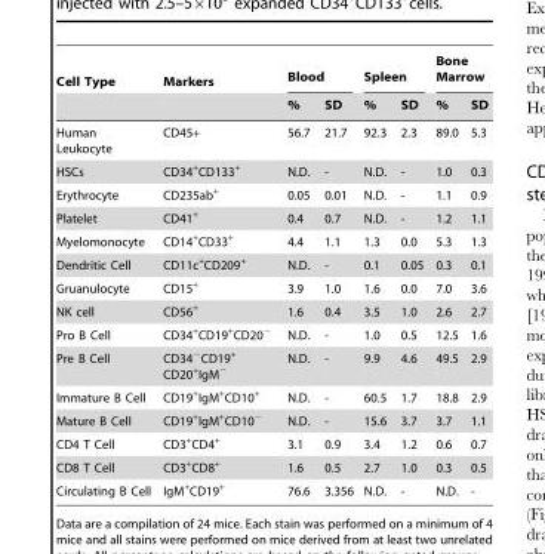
<table><thead><tr><td rowspan="2">Cell Type</td><td rowspan="2">Markers</td><td colspan="2">Blood</td><td colspan="2">Spleen</td><td colspan="2">Bone Marrow</td></tr><tr><td>%</td><td>SD</td><td>%</td><td>SD</td><td>%</td><td>SD</td></tr></thead><tbody><tr><td>Human Leukocyte</td><td>CD45+</td><td>56.7</td><td>21.7</td><td>92.3</td><td>2.3</td><td>89.0</td><td>5.3</td></tr><tr><td>HSCs</td><td>CD34<sup>+</sup>CD133<sup>+</sup></td><td>N.D.</td><td>-</td><td>N.D.</td><td>-</td><td>1.0</td><td>0.3</td></tr><tr><td>Erythrocyte</td><td>CD235ab<sup>+</sup></td><td>0.05</td><td>0.01</td><td>N.D.</td><td>-</td><td>1.1</td><td>0.9</td></tr><tr><td>Platelet</td><td>CD41<sup>+</sup></td><td>0.4</td><td>0.7</td><td>N.D.</td><td>-</td><td>1.2</td><td>1.1</td></tr><tr><td>Myelomonocyte</td><td>CD14<sup>+</sup>CD33<sup>+</sup></td><td>4.4</td><td>1.1</td><td>1.3</td><td>0.0</td><td>5.3</td><td>1.3</td></tr><tr><td>Dendritic Cell</td><td>CD11c<sup>+</sup>CD209<sup>+</sup></td><td>N.D.</td><td>-</td><td>0.1</td><td>0.05</td><td>0.3</td><td>0.1</td></tr><tr><td>Gruanulocyte</td><td>CD15<sup>+</sup></td><td>3.9</td><td>1.0</td><td>1.6</td><td>0.0</td><td>7.0</td><td>3.6</td></tr><tr><td>NK cell</td><td>CD56<sup>+</sup></td><td>1.6</td><td>0.4</td><td>3.5</td><td>1.0</td><td>2.6</td><td>2.7</td></tr><tr><td>Pro B Cell</td><td>CD34<sup>+</sup>CD19<sup>+</sup>CD20<sup>−</sup></td><td>N.D.</td><td>-</td><td>1.0</td><td>0.5</td><td>12.5</td><td>1.6</td></tr><tr><td>Pre B Cell</td><td>CD34<sup>−</sup>CD19<sup>+</sup> CD20<sup>+</sup>IgM<sup>−</sup></td><td>N.D.</td><td>-</td><td>9.9</td><td>4.6</td><td>49.5</td><td>2.9</td></tr><tr><td>Immature B Cell</td><td>CD19<sup>+</sup>IgM<sup>+</sup>CD10<sup>+</sup></td><td>N.D.</td><td>-</td><td>60.5</td><td>1.7</td><td>18.8</td><td>2.9</td></tr><tr><td>Mature B Cell</td><td>CD19<sup>+</sup>IgM<sup>+</sup>CD10<sup>−</sup></td><td>N.D.</td><td>-</td><td>15.6</td><td>3.7</td><td>3.7</td><td>1.1</td></tr><tr><td>CD4 T Cell</td><td>CD3<sup>+</sup>CD4<sup>+</sup></td><td>3.1</td><td>0.9</td><td>3.4</td><td>1.2</td><td>0.6</td><td>0.7</td></tr><tr><td>CD8 T Cell</td><td>CD3<sup>+</sup>CD8<sup>+</sup></td><td>1.6</td><td>0.5</td><td>2.7</td><td>1.0</td><td>0.3</td><td>0.5</td></tr><tr><td>Circulating B Cell</td><td>IgM<sup>+</sup>CD19<sup>+</sup></td><td>76.6</td><td>3.356</td><td>N.D.</td><td>-</td><td>N.D.</td><td>-</td></tr></tbody></table>